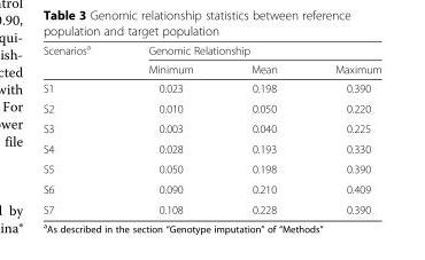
<table><thead><tr><td rowspan="2">Scenarios<sup>a</sup></td><td colspan="3">Genomic Relationship</td></tr><tr><td>Minimum</td><td>Mean</td><td>Maximum</td></tr></thead><tbody><tr><td>S1</td><td>0.023</td><td>0.198</td><td>0.390</td></tr><tr><td>S2</td><td>0.010</td><td>0.050</td><td>0.220</td></tr><tr><td>S3</td><td>0.003</td><td>0.040</td><td>0.225</td></tr><tr><td>S4</td><td>0.028</td><td>0.193</td><td>0.330</td></tr><tr><td>S5</td><td>0.050</td><td>0.198</td><td>0.390</td></tr><tr><td>S6</td><td>0.090</td><td>0.210</td><td>0.409</td></tr><tr><td>S7</td><td>0.108</td><td>0.228</td><td>0.390</td></tr></tbody></table>